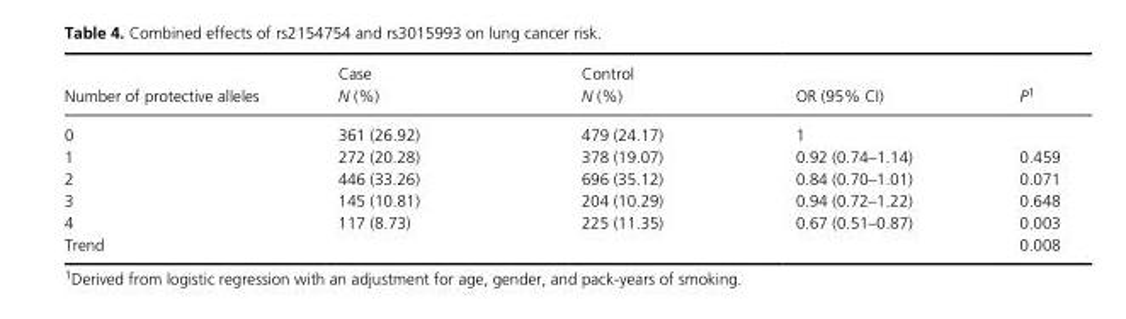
<table><thead><tr><td>Number of protective alleles</td><td>Case N (%)</td><td>Control N (%)</td><td>OR (95% CI)</td><td>P1</td></tr></thead><tbody><tr><td>0</td><td>361 (26.92)</td><td>479 (24.17)</td><td>1</td><td></td></tr><tr><td>1</td><td>272 (20.28)</td><td>378 (19.07)</td><td>0.92 (0.74–1.14)</td><td>0.459</td></tr><tr><td>2</td><td>446 (33.26)</td><td>696 (35.12)</td><td>0.84 (0.70–1.01)</td><td>0.071</td></tr><tr><td>3</td><td>145 (10.81)</td><td>204 (10.29)</td><td>0.94 (0.72–1.22)</td><td>0.648</td></tr><tr><td>4</td><td>117 (8.73)</td><td>225 (11.35)</td><td>0.67 (0.51–0.87)</td><td>0.003</td></tr><tr><td>Trend</td><td></td><td></td><td></td><td>0.008</td></tr></tbody></table>